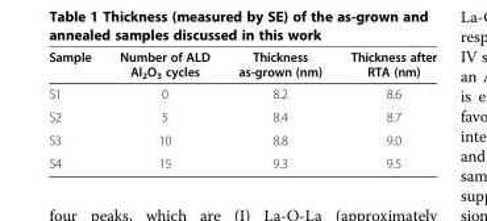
<table><thead><tr><td>Sample</td><td>Number of ALD Al<sub>2</sub>O<sub>3</sub> cycles</td><td>Thickness as-grown (nm)</td><td>Thickness after RTA (nm)</td></tr></thead><tbody><tr><td>S1</td><td>0</td><td>8.2</td><td>8.6</td></tr><tr><td>S2</td><td>5</td><td>8.4</td><td>8.7</td></tr><tr><td>S3</td><td>10</td><td>8.8</td><td>9.0</td></tr><tr><td>S4</td><td>15</td><td>9.3</td><td>9.5</td></tr></tbody></table>